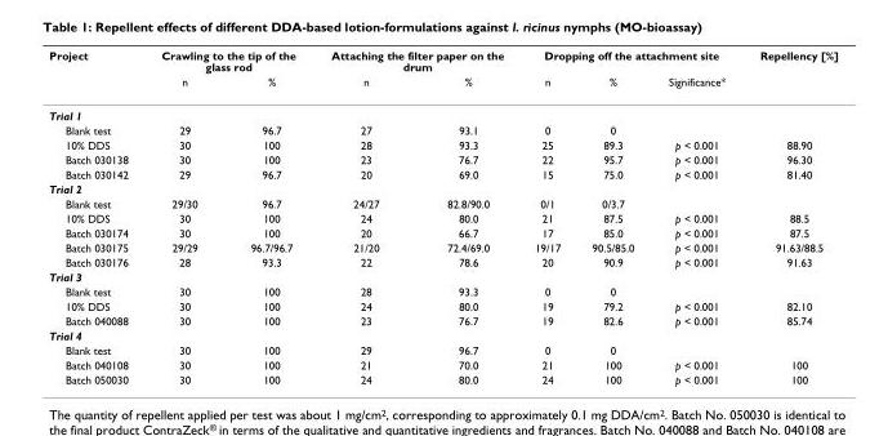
<table><thead><tr><td rowspan="2">Project</td><td colspan="2">Crawling to the tip of the glass rod</td><td colspan="2">Attaching the filter paper on the drum</td><td colspan="3">Dropping off the attachment site</td><td rowspan="2">Repellency [%]</td></tr><tr><td>n</td><td>%</td><td>n</td><td>%</td><td>n</td><td>%</td><td>Significance*</td></tr></thead><tbody><tr><td colspan="9">Trial 1</td></tr><tr><td>Blank test</td><td>29</td><td>96.7</td><td>27</td><td>93.1</td><td>0</td><td>0</td><td></td><td></td></tr><tr><td>10% DDS</td><td>30</td><td>100</td><td>28</td><td>93.3</td><td>25</td><td>89.3</td><td>p &lt; 0.001</td><td>88.90</td></tr><tr><td>Batch 030138</td><td>30</td><td>100</td><td>23</td><td>76.7</td><td>22</td><td>95.7</td><td>p &lt; 0.001</td><td>96.30</td></tr><tr><td>Batch 030142</td><td>29</td><td>96.7</td><td>20</td><td>69.0</td><td>15</td><td>75.0</td><td>p &lt; 0.001</td><td>81.40</td></tr><tr><td colspan="9">Trial 2</td></tr><tr><td>Blank test</td><td>29/30</td><td>96.7</td><td>24/27</td><td>82.8/90.0</td><td>0/1</td><td>0/3.7</td><td></td><td></td></tr><tr><td>10% DDS</td><td>30</td><td>100</td><td>24</td><td>80.0</td><td>21</td><td>87.5</td><td>p &lt; 0.001</td><td>88.5</td></tr><tr><td>Batch 030174</td><td>30</td><td>100</td><td>20</td><td>66.7</td><td>17</td><td>85.0</td><td>p &lt; 0.001</td><td>87.5</td></tr><tr><td>Batch 030175</td><td>29/29</td><td>96.7/96.7</td><td>21/20</td><td>72.4/69.0</td><td>19/17</td><td>90.5/85.0</td><td>p &lt; 0.001</td><td>91.63/88.5</td></tr><tr><td>Batch 030176</td><td>28</td><td>93.3</td><td>22</td><td>78.6</td><td>20</td><td>90.9</td><td>p &lt; 0.001</td><td>91.63</td></tr><tr><td colspan="9">Trial 3</td></tr><tr><td>Blank test</td><td>30</td><td>100</td><td>28</td><td>93.3</td><td>0</td><td>0</td><td></td><td></td></tr><tr><td>10% DDS</td><td>30</td><td>100</td><td>24</td><td>80.0</td><td>19</td><td>79.2</td><td>p &lt; 0.001</td><td>82.10</td></tr><tr><td>Batch 040088</td><td>30</td><td>100</td><td>23</td><td>76.7</td><td>19</td><td>82.6</td><td>p &lt; 0.001</td><td>85.74</td></tr><tr><td colspan="9">Trial 4</td></tr><tr><td>Blank test</td><td>30</td><td>100</td><td>29</td><td>96.7</td><td>0</td><td>0</td><td></td><td></td></tr><tr><td>Batch 040108</td><td>30</td><td>100</td><td>21</td><td>70.0</td><td>21</td><td>100</td><td>p &lt; 0.001</td><td>100</td></tr><tr><td>Batch 050030</td><td>30</td><td>100</td><td>24</td><td>80.0</td><td>24</td><td>100</td><td>p &lt; 0.001</td><td>100</td></tr></tbody></table>